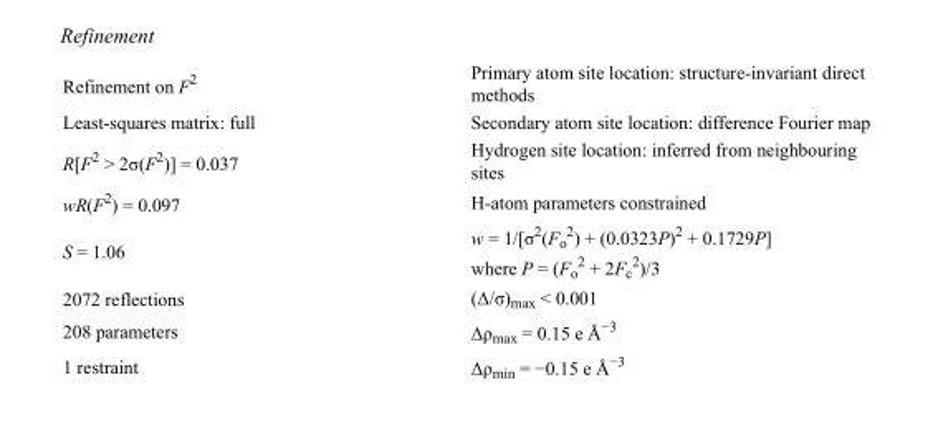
<table><tbody><tr><td>Refinement on F<sup>2</sup></td><td>Primary atom site location: structure-invariant direct methods</td></tr><tr><td>Least-squares matrix: full</td><td>Secondary atom site location: difference Fourier map</td></tr><tr><td>R[F<sup>2</sup> &gt; 2σ(F<sup>2</sup>)] = 0.037</td><td>Hydrogen site location: inferred from neighbouring sites</td></tr><tr><td>wR(F<sup>2</sup>) = 0.097</td><td>H-atom parameters constrained</td></tr><tr><td>S = 1.06</td><td>w = 1/[σ<sup>2</sup>(F<sub>o</sub> <sup>2</sup>) + (0.0323P)<sup>2</sup> + 0.1729P] where P = (F<sub>o</sub> <sup>2</sup> + 2F<sub>c</sub> <sup>2</sup>)/3</td></tr><tr><td>2072 reflections</td><td>(Δ/σ)<sub>max</sub> &lt; 0.001</td></tr><tr><td>208 parameters</td><td>Δρ<sub>max</sub> = 0.15 e Å<sup>−3</sup></td></tr><tr><td>1 restraint</td><td>Δρ<sub>min</sub> = −0.15 e Å<sup>−3</sup></td></tr></tbody></table>